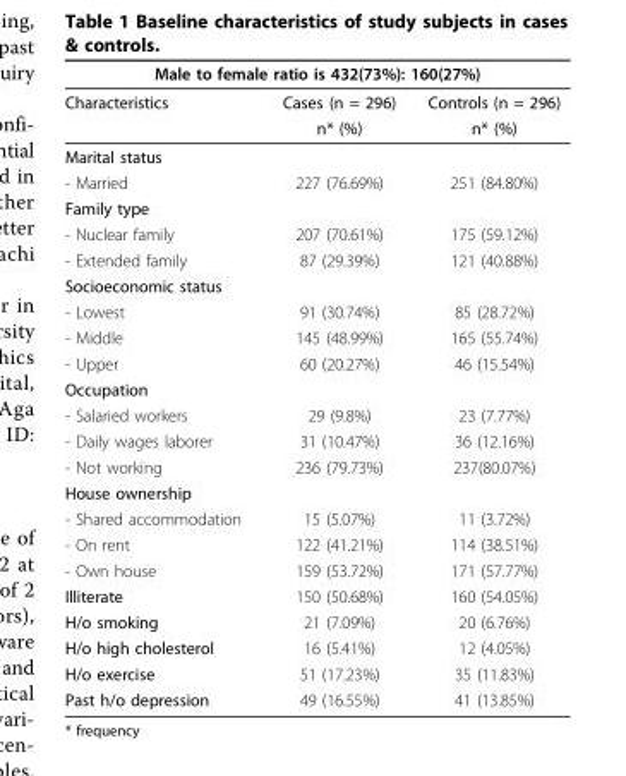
<table><thead><tr><td colspan="3">Male to female ratio is 432(73%): 160(27%)</td></tr><tr><td>Characteristics</td><td>Cases (n = 296)</td><td>Controls (n = 296)</td></tr></thead><tbody><tr><td></td><td>n* (%)</td><td>n* (%)</td></tr><tr><td colspan="3">Marital status</td></tr><tr><td>- Married</td><td>227 (76.69%)</td><td>251 (84.80%)</td></tr><tr><td colspan="3">Family type</td></tr><tr><td>- Nuclear family</td><td>207 (70.61%)</td><td>175 (59.12%)</td></tr><tr><td>- Extended family</td><td>87 (29.39%)</td><td>121 (40.88%)</td></tr><tr><td colspan="3">Socioeconomic status</td></tr><tr><td>- Lowest</td><td>91 (30.74%)</td><td>85 (28.72%)</td></tr><tr><td>- Middle</td><td>145 (48.99%)</td><td>165 (55.74%)</td></tr><tr><td>- Upper</td><td>60 (20.27%)</td><td>46 (15.54%)</td></tr><tr><td colspan="3">Occupation</td></tr><tr><td>- Salaried workers</td><td>29 (9.8%)</td><td>23 (7.77%)</td></tr><tr><td>- Daily wages laborer</td><td>31 (10.47%)</td><td>36 (12.16%)</td></tr><tr><td>- Not working</td><td>236 (79.73%)</td><td>237(80.07%)</td></tr><tr><td colspan="3">House ownership</td></tr><tr><td>- Shared accommodation</td><td>15 (5.07%)</td><td>11 (3.72%)</td></tr><tr><td>- On rent</td><td>122 (41.21%)</td><td>114 (38.51%)</td></tr><tr><td>- Own house</td><td>159 (53.72%)</td><td>171 (57.77%)</td></tr><tr><td>Illiterate</td><td>150 (50.68%)</td><td>160 (54.05%)</td></tr><tr><td>H/o smoking</td><td>21 (7.09%)</td><td>20 (6.76%)</td></tr><tr><td>H/o high cholesterol</td><td>16 (5.41%)</td><td>12 (4.05%)</td></tr><tr><td>H/o exercise</td><td>51 (17.23%)</td><td>35 (11.83%)</td></tr><tr><td>Past h/o depression</td><td>49 (16.55%)</td><td>41 (13.85%)</td></tr></tbody></table>